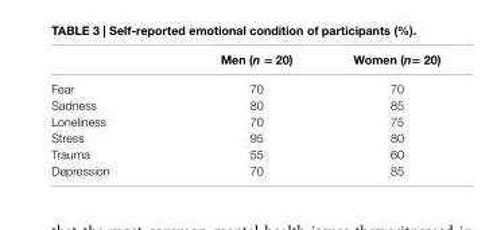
<table><thead><tr><td></td><td>Men (n = 20)</td><td>Women (n= 20)</td></tr></thead><tbody><tr><td>Fear</td><td>70</td><td>70</td></tr><tr><td>Sadness</td><td>80</td><td>85</td></tr><tr><td>Loneliness</td><td>70</td><td>75</td></tr><tr><td>Stress</td><td>95</td><td>80</td></tr><tr><td>Trauma</td><td>55</td><td>60</td></tr><tr><td>Depression</td><td>70</td><td>85</td></tr></tbody></table>